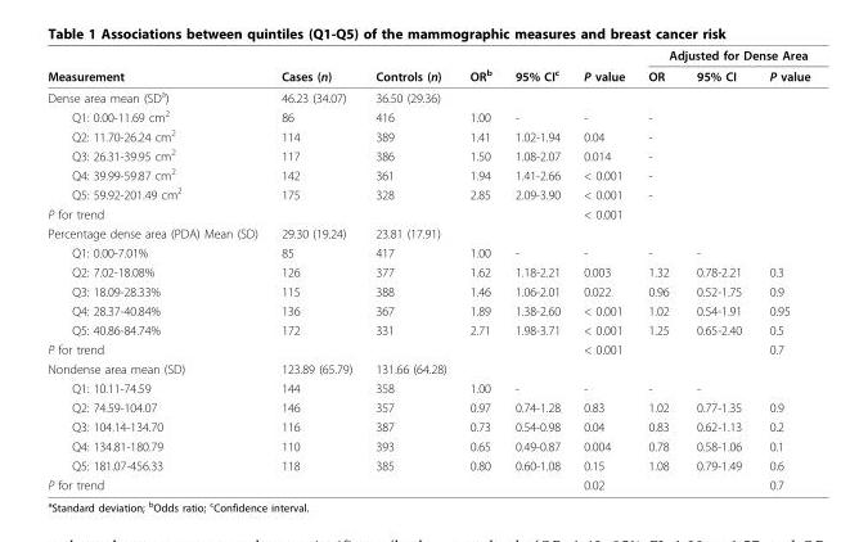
<table><thead><tr><td rowspan="2">Measurement</td><td rowspan="2">Cases (n)</td><td rowspan="2">Controls (n)</td><td rowspan="2">OR<sup>b</sup></td><td rowspan="2">95% CI<sup>c</sup></td><td rowspan="2">P value</td><td colspan="3">Adjusted for Dense Area</td></tr><tr><td>OR</td><td>95% CI</td><td>P value</td></tr></thead><tbody><tr><td>Dense area mean (SD<sup>a</sup>)</td><td>46.23 (34.07)</td><td>36.50 (29.36)</td><td></td><td></td><td></td><td></td><td></td><td></td></tr><tr><td>Q1: 0.00-11.69 cm<sup>2</sup></td><td>86</td><td>416</td><td>1.00</td><td>-</td><td>-</td><td>-</td><td></td><td></td></tr><tr><td>Q2: 11.70-26.24 cm<sup>2</sup></td><td>114</td><td>389</td><td>1.41</td><td>1.02-1.94</td><td>0.04</td><td>-</td><td></td><td></td></tr><tr><td>Q3: 26.31-39.95 cm<sup>2</sup></td><td>117</td><td>386</td><td>1.50</td><td>1.08-2.07</td><td>0.014</td><td>-</td><td></td><td></td></tr><tr><td>Q4: 39.99-59.87 cm<sup>2</sup></td><td>142</td><td>361</td><td>1.94</td><td>1.41-2.66</td><td>&lt; 0.001</td><td>-</td><td></td><td></td></tr><tr><td>Q5: 59.92-201.49 cm<sup>2</sup></td><td>175</td><td>328</td><td>2.85</td><td>2.09-3.90</td><td>&lt; 0.001</td><td>-</td><td></td><td></td></tr><tr><td>P for trend</td><td></td><td></td><td></td><td></td><td>&lt; 0.001</td><td></td><td></td><td></td></tr><tr><td>Percentage dense area (PDA) Mean (SD)</td><td>29.30 (19.24)</td><td>23.81 (17.91)</td><td></td><td></td><td></td><td></td><td></td><td></td></tr><tr><td>Q1: 0.00-7.01%</td><td>85</td><td>417</td><td>1.00</td><td>-</td><td>-</td><td>-</td><td>-</td><td></td></tr><tr><td>Q2: 7.02-18.08%</td><td>126</td><td>377</td><td>1.62</td><td>1.18-2.21</td><td>0.003</td><td>1.32</td><td>0.78-2.21</td><td>0.3</td></tr><tr><td>Q3: 18.09-28.33%</td><td>115</td><td>388</td><td>1.46</td><td>1.06-2.01</td><td>0.022</td><td>0.96</td><td>0.52-1.75</td><td>0.9</td></tr><tr><td>Q4: 28.37-40.84%</td><td>136</td><td>367</td><td>1.89</td><td>1.38-2.60</td><td>&lt; 0.001</td><td>1.02</td><td>0.54-1.91</td><td>0.95</td></tr><tr><td>Q5: 40.86-84.74%</td><td>172</td><td>331</td><td>2.71</td><td>1.98-3.71</td><td>&lt; 0.001</td><td>1.25</td><td>0.65-2.40</td><td>0.5</td></tr><tr><td>P for trend</td><td></td><td></td><td></td><td></td><td>&lt; 0.001</td><td></td><td></td><td>0.7</td></tr><tr><td>Nondense area mean (SD)</td><td>123.89 (65.79)</td><td>131.66 (64.28)</td><td></td><td></td><td></td><td></td><td></td><td></td></tr><tr><td>Q1: 10.11-74.59</td><td>144</td><td>358</td><td>1.00</td><td>-</td><td>-</td><td>-</td><td>-</td><td></td></tr><tr><td>Q2: 74.59-104.07</td><td>146</td><td>357</td><td>0.97</td><td>0.74-1.28</td><td>0.83</td><td>1.02</td><td>0.77-1.35</td><td>0.9</td></tr><tr><td>Q3: 104.14-134.70</td><td>116</td><td>387</td><td>0.73</td><td>0.54-0.98</td><td>0.04</td><td>0.83</td><td>0.62-1.13</td><td>0.2</td></tr><tr><td>Q4: 134.81-180.79</td><td>110</td><td>393</td><td>0.65</td><td>0.49-0.87</td><td>0.004</td><td>0.78</td><td>0.58-1.06</td><td>0.1</td></tr><tr><td>Q5: 181.07-456.33</td><td>118</td><td>385</td><td>0.80</td><td>0.60-1.08</td><td>0.15</td><td>1.08</td><td>0.79-1.49</td><td>0.6</td></tr><tr><td>P for trend</td><td></td><td></td><td></td><td></td><td>0.02</td><td></td><td></td><td>0.7</td></tr></tbody></table>